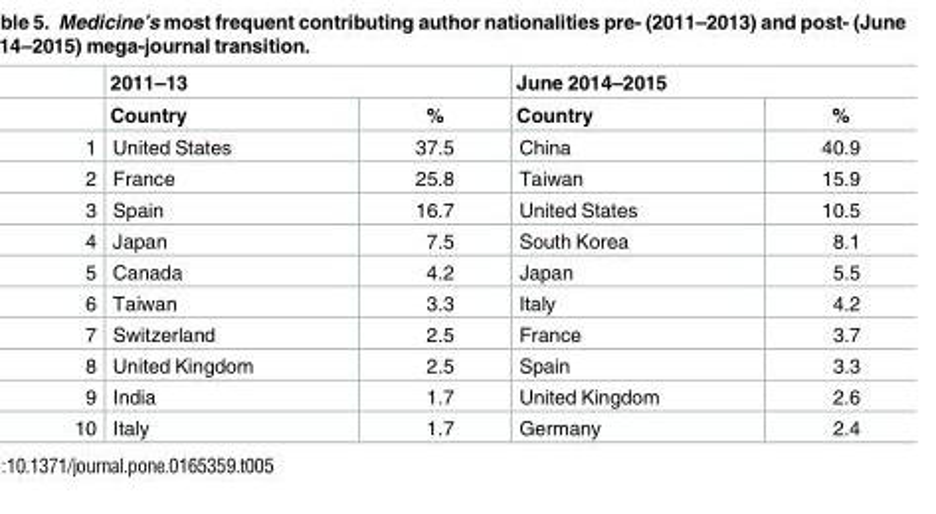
<table><thead><tr><td rowspan="2"></td><td colspan="2">2011–13</td><td colspan="2">June 2014–2015</td></tr><tr><td>Country</td><td>%</td><td>Country</td><td>%</td></tr></thead><tbody><tr><td>1</td><td>United States</td><td>37.5</td><td>China</td><td>40.9</td></tr><tr><td>2</td><td>France</td><td>25.8</td><td>Taiwan</td><td>15.9</td></tr><tr><td>3</td><td>Spain</td><td>16.7</td><td>United States</td><td>10.5</td></tr><tr><td>4</td><td>Japan</td><td>7.5</td><td>South Korea</td><td>8.1</td></tr><tr><td>5</td><td>Canada</td><td>4.2</td><td>Japan</td><td>5.5</td></tr><tr><td>6</td><td>Taiwan</td><td>3.3</td><td>Italy</td><td>4.2</td></tr><tr><td>7</td><td>Switzerland</td><td>2.5</td><td>France</td><td>3.7</td></tr><tr><td>8</td><td>United Kingdom</td><td>2.5</td><td>Spain</td><td>3.3</td></tr><tr><td>9</td><td>India</td><td>1.7</td><td>United Kingdom</td><td>2.6</td></tr><tr><td>10</td><td>Italy</td><td>1.7</td><td>Germany</td><td>2.4</td></tr></tbody></table>